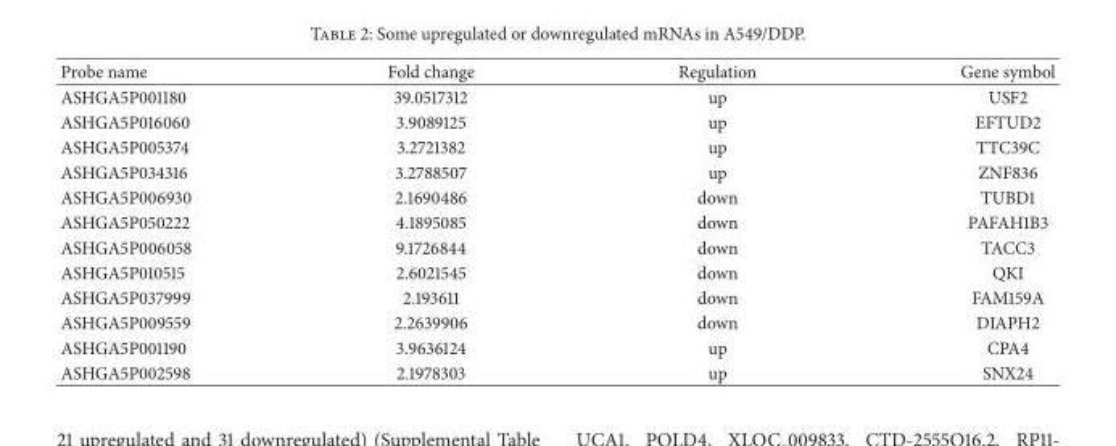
<table><thead><tr><td>Probe name</td><td>Fold change</td><td>Regulation</td><td>Gene symbol</td></tr></thead><tbody><tr><td>ASHGA5P001180</td><td>39.0517312</td><td>up</td><td>USF2</td></tr><tr><td>ASHGA5P016060</td><td>3.9089125</td><td>up</td><td>EFTUD2</td></tr><tr><td>ASHGA5P005374</td><td>3.2721382</td><td>up</td><td>TTC39C</td></tr><tr><td>ASHGA5P034316</td><td>3.2788507</td><td>up</td><td>ZNF836</td></tr><tr><td>ASHGA5P006930</td><td>2.1690486</td><td>down</td><td>TUBD1</td></tr><tr><td>ASHGA5P050222</td><td>4.1895085</td><td>down</td><td>PAFAH1B3</td></tr><tr><td>ASHGA5P006058</td><td>9.1726844</td><td>down</td><td>TACC3</td></tr><tr><td>ASHGA5P010515</td><td>2.6021545</td><td>down</td><td>QKI</td></tr><tr><td>ASHGA5P037999</td><td>2.193611</td><td>down</td><td>FAM159A</td></tr><tr><td>ASHGA5P009559</td><td>2.2639906</td><td>down</td><td>DIAPH2</td></tr><tr><td>ASHGA5P001190</td><td>3.9636124</td><td>up</td><td>CPA4</td></tr><tr><td>ASHGA5P002598</td><td>2.1978303</td><td>up</td><td>SNX24</td></tr></tbody></table>